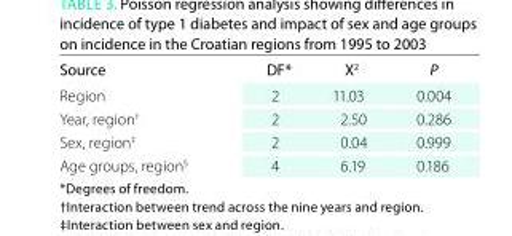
<table><thead><tr><td>Source</td><td>dF*</td><td>Χ<sup>2</sup></td><td>P</td></tr></thead><tbody><tr><td>Region</td><td>2</td><td>11.03</td><td>0.004</td></tr><tr><td>Year, region<sup>†</sup></td><td>2</td><td>2.50</td><td>0.286</td></tr><tr><td>Sex, region<sup>‡</sup></td><td>2</td><td>0.04</td><td>0.999</td></tr><tr><td>Age groups, region<sup>§</sup></td><td>4</td><td>6.19</td><td>0.186</td></tr></tbody></table>